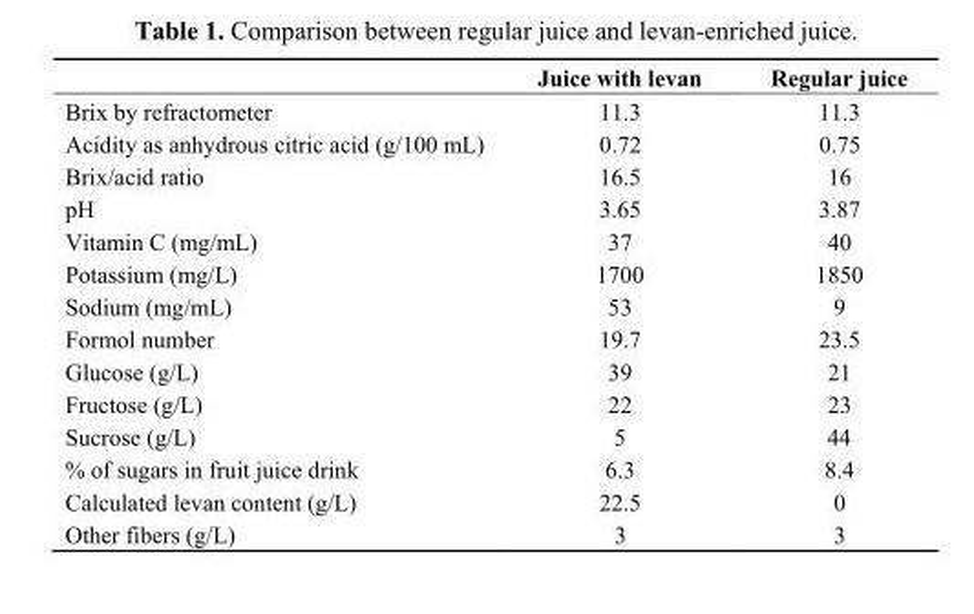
<table><thead><tr><td></td><td>Juice with levan</td><td>Regular juice</td></tr></thead><tbody><tr><td>Brix by refractometer</td><td>11.3</td><td>11.3</td></tr><tr><td>Acidity as anhydrous citric acid (g/100 mL)</td><td>0.72</td><td>0.75</td></tr><tr><td>Brix/acid ratio</td><td>16.5</td><td>16</td></tr><tr><td>pH</td><td>3.65</td><td>3.87</td></tr><tr><td>Vitamin C (mg/mL)</td><td>37</td><td>40</td></tr><tr><td>Potassium (mg/L)</td><td>1700</td><td>1850</td></tr><tr><td>Sodium (mg/mL)</td><td>53</td><td>9</td></tr><tr><td>Formol number</td><td>19.7</td><td>23.5</td></tr><tr><td>Glucose (g/L)</td><td>39</td><td>21</td></tr><tr><td>Fructose (g/L)</td><td>22</td><td>23</td></tr><tr><td>Sucrose (g/L)</td><td>5</td><td>44</td></tr><tr><td>% of sugars in fruit juice drink</td><td>6.3</td><td>8.4</td></tr><tr><td>Calculated levan content (g/L)</td><td>22.5</td><td>0</td></tr><tr><td>Other fibers (g/L)</td><td>3</td><td>3</td></tr></tbody></table>